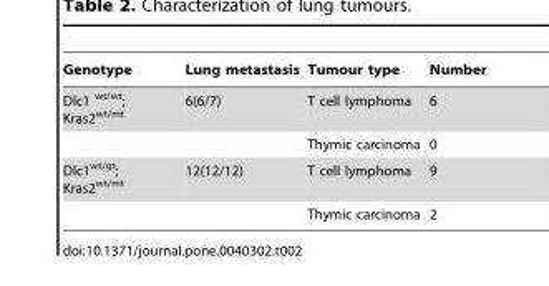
<table><thead><tr><td>Genotype</td><td>Lung metastasis</td><td>Tumour type</td><td>Number</td></tr></thead><tbody><tr><td rowspan="2">Dlc1 <sup>wt/wt</sup>; Kras2<sup>wt/mt</sup></td><td>6(6/7)</td><td>T cell lymphoma</td><td>6</td></tr><tr><td></td><td>Thymic carcinoma</td><td>0</td></tr><tr><td rowspan="2">Dlc1<sup>wt/gt</sup>; Kras2<sup>wt/mt</sup></td><td>12(12/12)</td><td>T cell lymphoma</td><td>9</td></tr><tr><td></td><td>Thymic carcinoma</td><td>2</td></tr></tbody></table>